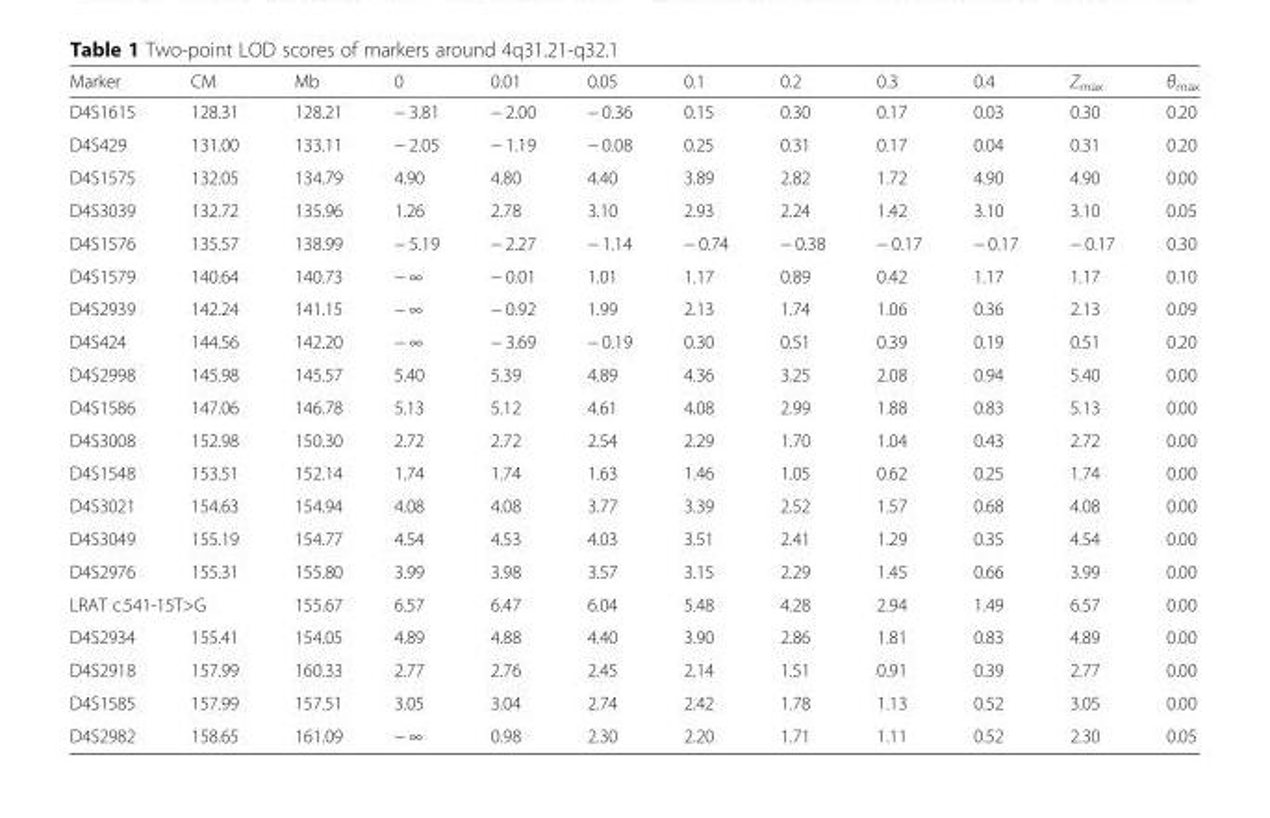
<table><thead><tr><td>Marker</td><td>CM</td><td>Mb</td><td>0</td><td>0.01</td><td>0.05</td><td>0.1</td><td>0.2</td><td>0.3</td><td>0.4</td><td>Z<sub>max</sub></td><td>θ<sub>max</sub></td></tr></thead><tbody><tr><td>D4S1615</td><td>128.31</td><td>128.21</td><td>− 3.81</td><td>− 2.00</td><td>− 0.36</td><td>0.15</td><td>0.30</td><td>0.17</td><td>0.03</td><td>0.30</td><td>0.20</td></tr><tr><td>D4S429</td><td>131.00</td><td>133.11</td><td>− 2.05</td><td>− 1.19</td><td>− 0.08</td><td>0.25</td><td>0.31</td><td>0.17</td><td>0.04</td><td>0.31</td><td>0.20</td></tr><tr><td>D4S1575</td><td>132.05</td><td>134.79</td><td>4.90</td><td>4.80</td><td>4.40</td><td>3.89</td><td>2.82</td><td>1.72</td><td>4.90</td><td>4.90</td><td>0.00</td></tr><tr><td>D4S3039</td><td>132.72</td><td>135.96</td><td>1.26</td><td>2.78</td><td>3.10</td><td>2.93</td><td>2.24</td><td>1.42</td><td>3.10</td><td>3.10</td><td>0.05</td></tr><tr><td>D4S1576</td><td>135.57</td><td>138.99</td><td>− 5.19</td><td>− 2.27</td><td>− 1.14</td><td>− 0.74</td><td>− 0.38</td><td>− 0.17</td><td>− 0.17</td><td>− 0.17</td><td>0.30</td></tr><tr><td>D4S1579</td><td>140.64</td><td>140.73</td><td>− ∞</td><td>− 0.01</td><td>1.01</td><td>1.17</td><td>0.89</td><td>0.42</td><td>1.17</td><td>1.17</td><td>0.10</td></tr><tr><td>D4S2939</td><td>142.24</td><td>141.15</td><td>− ∞</td><td>− 0.92</td><td>1.99</td><td>2.13</td><td>1.74</td><td>1.06</td><td>0.36</td><td>2.13</td><td>0.09</td></tr><tr><td>D4S424</td><td>144.56</td><td>142.20</td><td>− ∞</td><td>− 3.69</td><td>− 0.19</td><td>0.30</td><td>0.51</td><td>0.39</td><td>0.19</td><td>0.51</td><td>0.20</td></tr><tr><td>D4S2998</td><td>145.98</td><td>145.57</td><td>5.40</td><td>5.39</td><td>4.89</td><td>4.36</td><td>3.25</td><td>2.08</td><td>0.94</td><td>5.40</td><td>0.00</td></tr><tr><td>D4S1586</td><td>147.06</td><td>146.78</td><td>5.13</td><td>5.12</td><td>4.61</td><td>4.08</td><td>2.99</td><td>1.88</td><td>0.83</td><td>5.13</td><td>0.00</td></tr><tr><td>D4S3008</td><td>152.98</td><td>150.30</td><td>2.72</td><td>2.72</td><td>2.54</td><td>2.29</td><td>1.70</td><td>1.04</td><td>0.43</td><td>2.72</td><td>0.00</td></tr><tr><td>D4S1548</td><td>153.51</td><td>152.14</td><td>1.74</td><td>1.74</td><td>1.63</td><td>1.46</td><td>1.05</td><td>0.62</td><td>0.25</td><td>1.74</td><td>0.00</td></tr><tr><td>D4S3021</td><td>154.63</td><td>154.94</td><td>4.08</td><td>4.08</td><td>3.77</td><td>3.39</td><td>2.52</td><td>1.57</td><td>0.68</td><td>4.08</td><td>0.00</td></tr><tr><td>D4S3049</td><td>155.19</td><td>154.77</td><td>4.54</td><td>4.53</td><td>4.03</td><td>3.51</td><td>2.41</td><td>1.29</td><td>0.35</td><td>4.54</td><td>0.00</td></tr><tr><td>D4S2976</td><td>155.31</td><td>155.80</td><td>3.99</td><td>3.98</td><td>3.57</td><td>3.15</td><td>2.29</td><td>1.45</td><td>0.66</td><td>3.99</td><td>0.00</td></tr><tr><td colspan="2">LRAT c.541-15T&gt;G</td><td>155.67</td><td>6.57</td><td>6.47</td><td>6.04</td><td>5.48</td><td>4.28</td><td>2.94</td><td>1.49</td><td>6.57</td><td>0.00</td></tr><tr><td>D4S2934</td><td>155.41</td><td>154.05</td><td>4.89</td><td>4.88</td><td>4.40</td><td>3.90</td><td>2.86</td><td>1.81</td><td>0.83</td><td>4.89</td><td>0.00</td></tr><tr><td>D4S2918</td><td>157.99</td><td>160.33</td><td>2.77</td><td>2.76</td><td>2.45</td><td>2.14</td><td>1.51</td><td>0.91</td><td>0.39</td><td>2.77</td><td>0.00</td></tr><tr><td>D4S1585</td><td>157.99</td><td>157.51</td><td>3.05</td><td>3.04</td><td>2.74</td><td>2.42</td><td>1.78</td><td>1.13</td><td>0.52</td><td>3.05</td><td>0.00</td></tr><tr><td>D4S2982</td><td>158.65</td><td>161.09</td><td>− ∞</td><td>0.98</td><td>2.30</td><td>2.20</td><td>1.71</td><td>1.11</td><td>0.52</td><td>2.30</td><td>0.05</td></tr></tbody></table>